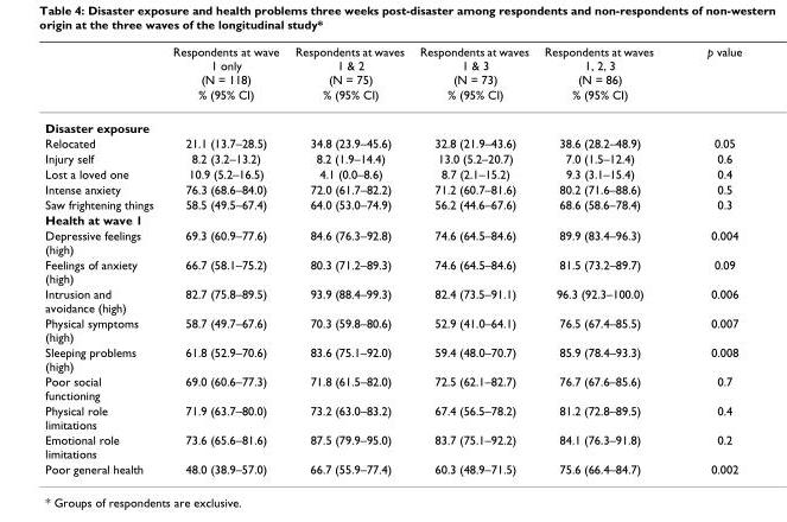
<table><thead><tr><td rowspan="2"></td><td rowspan="2">Respondents at wave 1 only (N = 118) % (95% CI)</td><td rowspan="2">Respondents at waves 1 &amp; 2 (N = 75) % (95% CI)</td><td rowspan="2">Respondents at waves 1 &amp; 3 (N = 73) % (95% CI)</td><td rowspan="2">Respondents at waves 1, 2, 3 (N = 86) % (95% CI)</td><td rowspan="2">p value</td></tr><tr></tr></thead><tbody><tr><td colspan="6">Disaster exposure</td></tr><tr><td>Relocated</td><td>21.1 (13.7–28.5)</td><td>34.8 (23.9–45.6)</td><td>32.8 (21.9–43.6)</td><td>38.6 (28.2–48.9)</td><td>0.05</td></tr><tr><td>Injury self</td><td>8.2 (3.2–13.2)</td><td>8.2 (1.9–14.4)</td><td>13.0 (5.2–20.7)</td><td>7.0 (1.5–12.4)</td><td>0.6</td></tr><tr><td>Lost a loved one</td><td>10.9 (5.2–16.5)</td><td>4.1 (0.0–8.6)</td><td>8.7 (2.1–15.2)</td><td>9.3 (3.1–15.4)</td><td>0.4</td></tr><tr><td>Intense anxiety</td><td>76.3 (68.6–84.0)</td><td>72.0 (61.7–82.2)</td><td>71.2 (60.7–81.6)</td><td>80.2 (71.6–88.6)</td><td>0.5</td></tr><tr><td>Saw frightening things</td><td>58.5 (49.5–67.4)</td><td>64.0 (53.0–74.9)</td><td>56.2 (44.6–67.6)</td><td>68.6 (58.6–78.4)</td><td>0.3</td></tr><tr><td colspan="6">Health at wave 1</td></tr><tr><td>Depressive feelings (high)</td><td>69.3 (60.9–77.6)</td><td>84.6 (76.3–92.8)</td><td>74.6 (64.5–84.6)</td><td>89.9 (83.4–96.3)</td><td>0.004</td></tr><tr><td>Feelings of anxiety (high)</td><td>66.7 (58.1–75.2)</td><td>80.3 (71.2–89.3)</td><td>74.6 (64.5–84.6)</td><td>81.5 (73.2–89.7)</td><td>0.09</td></tr><tr><td>Intrusion and avoidance (high)</td><td>82.7 (75.8–89.5)</td><td>93.9 (88.4–99.3)</td><td>82.4 (73.5–91.1)</td><td>96.3 (92.3–100.0)</td><td>0.006</td></tr><tr><td>Physical symptoms (high)</td><td>58.7 (49.7–67.6)</td><td>70.3 (59.8–80.6)</td><td>52.9 (41.0–64.1)</td><td>76.5 (67.4–85.5)</td><td>0.007</td></tr><tr><td>Sleeping problems (high)</td><td>61.8 (52.9–70.6)</td><td>83.6 (75.1–92.0)</td><td>59.4 (48.0–70.7)</td><td>85.9 (78.4–93.3)</td><td>0.008</td></tr><tr><td>Poor social functioning</td><td>69.0 (60.6–77.3)</td><td>71.8 (61.5–82.0)</td><td>72.5 (62.1–82.7)</td><td>76.7 (67.6–85.6)</td><td>0.7</td></tr><tr><td>Physical role limitations</td><td>71.9 (63.7–80.0)</td><td>73.2 (63.0–83.2)</td><td>67.4 (56.5–78.2)</td><td>81.2 (72.8–89.5)</td><td>0.4</td></tr><tr><td>Emotional role limitations</td><td>73.6 (65.6–81.6)</td><td>87.5 (79.9–95.0)</td><td>83.7 (75.1–92.2)</td><td>84.1 (76.3–91.8)</td><td>0.2</td></tr><tr><td>Poor general health</td><td>48.0 (38.9–57.0)</td><td>66.7 (55.9–77.4)</td><td>60.3 (48.9–71.5)</td><td>75.6 (66.4–84.7)</td><td>0.002</td></tr></tbody></table>